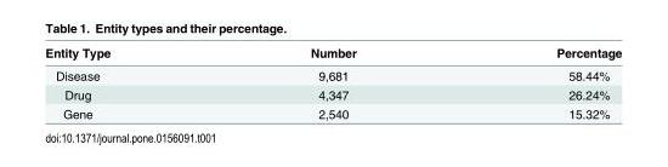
<table><thead><tr><td>Entity Type</td><td>Number</td><td>Percentage</td></tr></thead><tbody><tr><td>Disease</td><td>9,681</td><td>58.44%</td></tr><tr><td>Drug</td><td>4,347</td><td>26.24%</td></tr><tr><td>Gene</td><td>2,540</td><td>15.32%</td></tr></tbody></table>